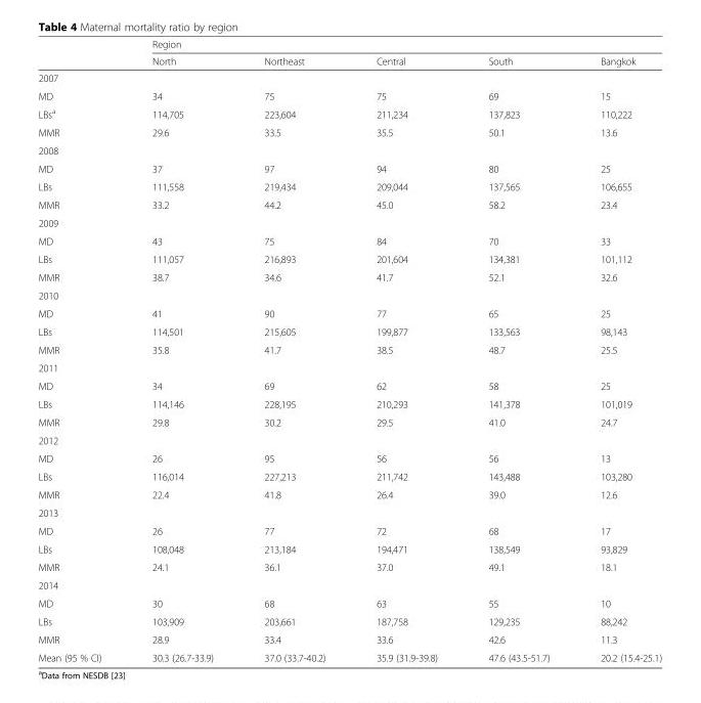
<table><thead><tr><td rowspan="2"></td><td colspan="5">Region</td></tr><tr><td>North</td><td>Northeast</td><td>Central</td><td>South</td><td>Bangkok</td></tr></thead><tbody><tr><td colspan="6">2007</td></tr><tr><td>MD</td><td>34</td><td>75</td><td>75</td><td>69</td><td>15</td></tr><tr><td>LBs<sup>a</sup></td><td>114,705</td><td>223,604</td><td>211,234</td><td>137,823</td><td>110,222</td></tr><tr><td>MMR</td><td>29.6</td><td>33.5</td><td>35.5</td><td>50.1</td><td>13.6</td></tr><tr><td colspan="6">2008</td></tr><tr><td>MD</td><td>37</td><td>97</td><td>94</td><td>80</td><td>25</td></tr><tr><td>LBs</td><td>111,558</td><td>219,434</td><td>209,044</td><td>137,565</td><td>106,655</td></tr><tr><td>MMR</td><td>33.2</td><td>44.2</td><td>45.0</td><td>58.2</td><td>23.4</td></tr><tr><td colspan="6">2009</td></tr><tr><td>MD</td><td>43</td><td>75</td><td>84</td><td>70</td><td>33</td></tr><tr><td>LBs</td><td>111,057</td><td>216,893</td><td>201,604</td><td>134,381</td><td>101,112</td></tr><tr><td>MMR</td><td>38.7</td><td>34.6</td><td>41.7</td><td>52.1</td><td>32.6</td></tr><tr><td colspan="6">2010</td></tr><tr><td>MD</td><td>41</td><td>90</td><td>77</td><td>65</td><td>25</td></tr><tr><td>LBs</td><td>114,501</td><td>215,605</td><td>199,877</td><td>133,563</td><td>98,143</td></tr><tr><td>MMR</td><td>35.8</td><td>41.7</td><td>38.5</td><td>48.7</td><td>25.5</td></tr><tr><td colspan="6">2011</td></tr><tr><td>MD</td><td>34</td><td>69</td><td>62</td><td>58</td><td>25</td></tr><tr><td>LBs</td><td>114,146</td><td>228,195</td><td>210,293</td><td>141,378</td><td>101,019</td></tr><tr><td>MMR</td><td>29.8</td><td>30.2</td><td>29.5</td><td>41.0</td><td>24.7</td></tr><tr><td colspan="6">2012</td></tr><tr><td>MD</td><td>26</td><td>95</td><td>56</td><td>56</td><td>13</td></tr><tr><td>LBs</td><td>116,014</td><td>227,213</td><td>211,742</td><td>143,488</td><td>103,280</td></tr><tr><td>MMR</td><td>22.4</td><td>41.8</td><td>26.4</td><td>39.0</td><td>12.6</td></tr><tr><td colspan="6">2013</td></tr><tr><td>MD</td><td>26</td><td>77</td><td>72</td><td>68</td><td>17</td></tr><tr><td>LBs</td><td>108,048</td><td>213,184</td><td>194,471</td><td>138,549</td><td>93,829</td></tr><tr><td>MMR</td><td>24.1</td><td>36.1</td><td>37.0</td><td>49.1</td><td>18.1</td></tr><tr><td colspan="6">2014</td></tr><tr><td>MD</td><td>30</td><td>68</td><td>63</td><td>55</td><td>10</td></tr><tr><td>LBs</td><td>103,909</td><td>203,661</td><td>187,758</td><td>129,235</td><td>88,242</td></tr><tr><td>MMR</td><td>28.9</td><td>33.4</td><td>33.6</td><td>42.6</td><td>11.3</td></tr><tr><td>Mean (95 % CI)</td><td>30.3 (26.7-33.9)</td><td>37.0 (33.7-40.2)</td><td>35.9 (31.9-39.8)</td><td>47.6 (43.5-51.7)</td><td>20.2 (15.4-25.1)</td></tr></tbody></table>